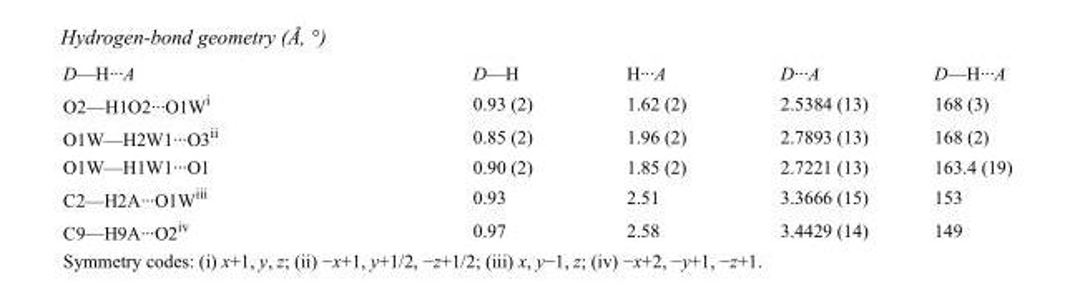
<table><tbody><tr><td>D—H···A</td><td>D—H</td><td>H···A</td><td>D···A</td><td>D—H···A</td></tr><tr><td>O2—H1O2···O1W<sup>i</sup></td><td>0.93 (2)</td><td>1.62 (2)</td><td>2.5384 (13)</td><td>168 (3)</td></tr><tr><td>O1W—H2W1···O3<sup>ii</sup></td><td>0.85 (2)</td><td>1.96 (2)</td><td>2.7893 (13)</td><td>168 (2)</td></tr><tr><td>O1W—H1W1···O1</td><td>0.90 (2)</td><td>1.85 (2)</td><td>2.7221 (13)</td><td>163.4 (19)</td></tr><tr><td>C2—H2A···O1W<sup>iii</sup></td><td>0.93</td><td>2.51</td><td>3.3666 (15)</td><td>153</td></tr><tr><td>C9—H9A···O2<sup>iv</sup></td><td>0.97</td><td>2.58</td><td>3.4429 (14)</td><td>149</td></tr></tbody></table>